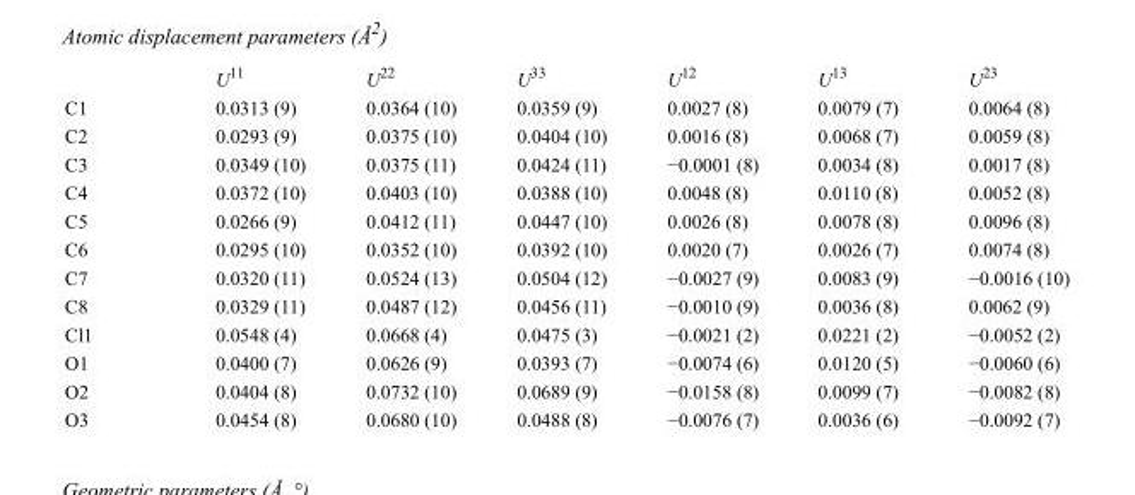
<table><thead><tr><td></td><td>U<sup>11</sup></td><td>U<sup>22</sup></td><td>U<sup>33</sup></td><td>U<sup>12</sup></td><td>U<sup>13</sup></td><td>U<sup>23</sup></td></tr></thead><tbody><tr><td>C1</td><td>0.0313 (9)</td><td>0.0364 (10)</td><td>0.0359 (9)</td><td>0.0027 (8)</td><td>0.0079 (7)</td><td>0.0064 (8)</td></tr><tr><td>C2</td><td>0.0293 (9)</td><td>0.0375 (10)</td><td>0.0404 (10)</td><td>0.0016 (8)</td><td>0.0068 (7)</td><td>0.0059 (8)</td></tr><tr><td>C3</td><td>0.0349 (10)</td><td>0.0375 (11)</td><td>0.0424 (11)</td><td>−0.0001 (8)</td><td>0.0034 (8)</td><td>0.0017 (8)</td></tr><tr><td>C4</td><td>0.0372 (10)</td><td>0.0403 (10)</td><td>0.0388 (10)</td><td>0.0048 (8)</td><td>0.0110 (8)</td><td>0.0052 (8)</td></tr><tr><td>C5</td><td>0.0266 (9)</td><td>0.0412 (11)</td><td>0.0447 (10)</td><td>0.0026 (8)</td><td>0.0078 (8)</td><td>0.0096 (8)</td></tr><tr><td>C6</td><td>0.0295 (10)</td><td>0.0352 (10)</td><td>0.0392 (10)</td><td>0.0020 (7)</td><td>0.0026 (7)</td><td>0.0074 (8)</td></tr><tr><td>C7</td><td>0.0320 (11)</td><td>0.0524 (13)</td><td>0.0504 (12)</td><td>−0.0027 (9)</td><td>0.0083 (9)</td><td>−0.0016 (10)</td></tr><tr><td>C8</td><td>0.0329 (11)</td><td>0.0487 (12)</td><td>0.0456 (11)</td><td>−0.0010 (9)</td><td>0.0036 (8)</td><td>0.0062 (9)</td></tr><tr><td>Cl1</td><td>0.0548 (4)</td><td>0.0668 (4)</td><td>0.0475 (3)</td><td>−0.0021 (2)</td><td>0.0221 (2)</td><td>−0.0052 (2)</td></tr><tr><td>O1</td><td>0.0400 (7)</td><td>0.0626 (9)</td><td>0.0393 (7)</td><td>−0.0074 (6)</td><td>0.0120 (5)</td><td>−0.0060 (6)</td></tr><tr><td>O2</td><td>0.0404 (8)</td><td>0.0732 (10)</td><td>0.0689 (9)</td><td>−0.0158 (8)</td><td>0.0099 (7)</td><td>−0.0082 (8)</td></tr><tr><td>O3</td><td>0.0454 (8)</td><td>0.0680 (10)</td><td>0.0488 (8)</td><td>−0.0076 (7)</td><td>0.0036 (6)</td><td>−0.0092 (7)</td></tr></tbody></table>